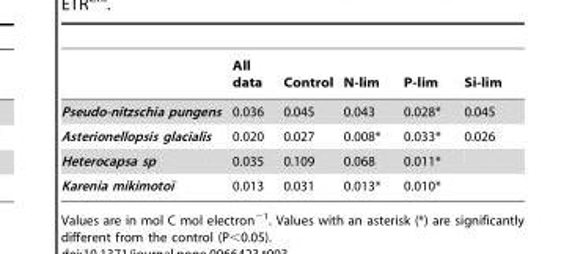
<table><thead><tr><td></td><td>All data</td><td>Control</td><td>N-lim</td><td>P-lim</td><td>Si-lim</td></tr></thead><tbody><tr><td>Pseudo-nitzschia pungens</td><td>0.036</td><td>0.045</td><td>0.043</td><td>0.028*</td><td>0.045</td></tr><tr><td>Asterionellopsis glacialis</td><td>0.020</td><td>0.027</td><td>0.008*</td><td>0.033*</td><td>0.026</td></tr><tr><td>Heterocapsa sp</td><td>0.035</td><td>0.109</td><td>0.068</td><td>0.011*</td><td></td></tr><tr><td>Karenia mikimotoı¨</td><td>0.013</td><td>0.031</td><td>0.013*</td><td>0.010*</td><td></td></tr></tbody></table>